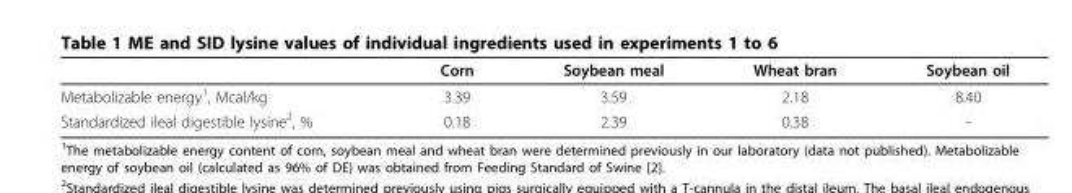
<table><thead><tr><td></td><td>Corn</td><td>Soybean meal</td><td>Wheat bran</td><td>Soybean oil</td></tr></thead><tbody><tr><td>Metabolizable energy<sup>1</sup>, Mcal/kg</td><td>3.39</td><td>3.59</td><td>2.18</td><td>8.40</td></tr><tr><td>Standardized ileal digestible lysine<sup>2</sup>, %</td><td>0.18</td><td>2.39</td><td>0.38</td><td>-</td></tr></tbody></table>